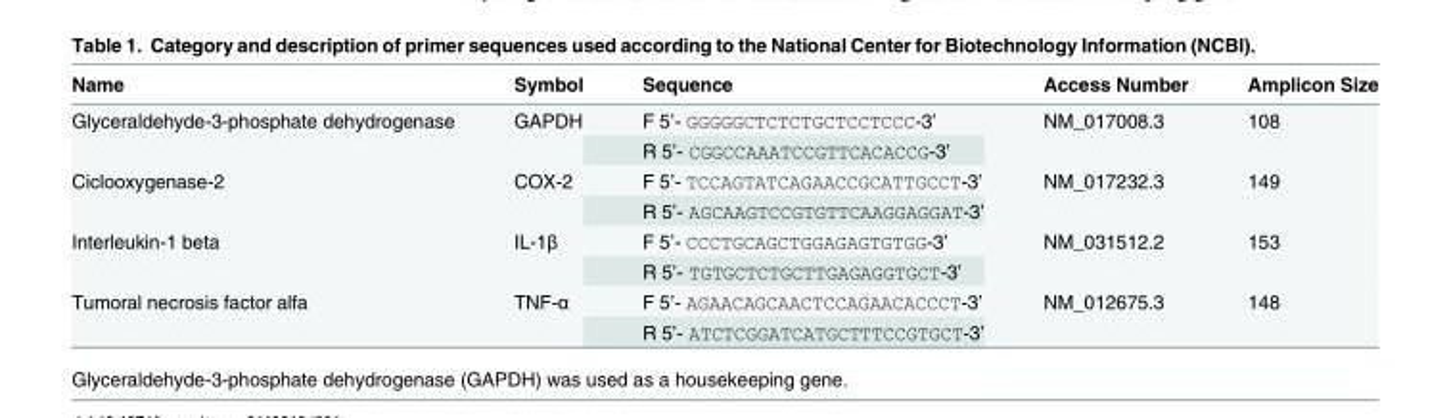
<table><thead><tr><td>Name</td><td>Symbol</td><td>Sequence</td><td>Access Number</td><td>Amplicon Size</td></tr></thead><tbody><tr><td rowspan="2">Glyceraldehyde-3-phosphate dehydrogenase</td><td rowspan="2">GAPDH</td><td>F 5’- GGGGGCTCTCTGCTCCTCCC-3’</td><td rowspan="2">NM_017008.3</td><td rowspan="2">108</td></tr><tr><td>R 5’- CGGCCAAATCCGTTCACACCG-3’</td></tr><tr><td rowspan="2">Ciclooxygenase-2</td><td rowspan="2">COX-2</td><td>F 5’- TCCAGTATCAGAACCGCATTGCCT-3’</td><td rowspan="2">NM_017232.3</td><td rowspan="2">149</td></tr><tr><td>R 5’- AGCAAGTCCGTGTTCAAGGAGGAT-3’</td></tr><tr><td rowspan="2">Interleukin-1 beta</td><td rowspan="2">IL-1β</td><td>F 5’- CCCTGCAGCTGGAGAGTGTGG-3’</td><td rowspan="2">NM_031512.2</td><td rowspan="2">153</td></tr><tr><td>R 5’- TGTGCTCTGCTTGAGAGGTGCT-3’</td></tr><tr><td rowspan="2">Tumoral necrosis factor alfa</td><td rowspan="2">TNF-α</td><td>F 5’- AGAACAGCAACTCCAGAACACCCT-3’</td><td rowspan="2">NM_012675.3</td><td rowspan="2">148</td></tr><tr><td>R 5’- ATCTCGGATCATGCTTTCCGTGCT-3’</td></tr></tbody></table>